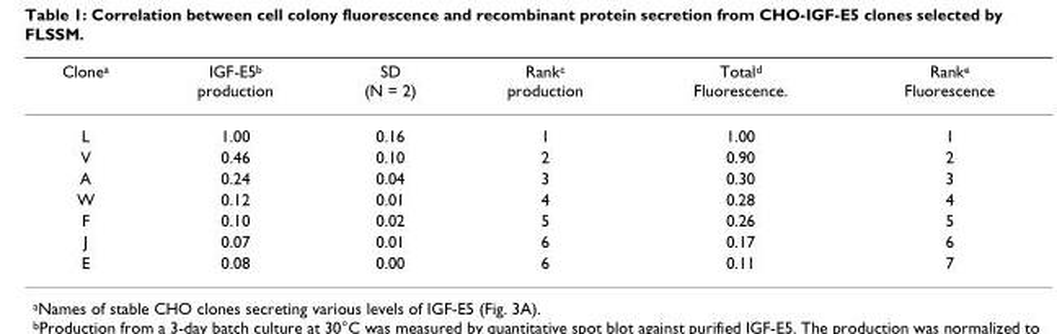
<table><thead><tr><td>Clone<sup>a</sup></td><td>IGF-E5<sup>b</sup> production</td><td>SD (N = 2)</td><td>Rank<sup>c</sup> production</td><td>Total<sup>d</sup> Fluorescence.</td><td>Rank<sup>e</sup> Fluorescence</td></tr></thead><tbody><tr><td>L</td><td>1.00</td><td>0.16</td><td>1</td><td>1.00</td><td>1</td></tr><tr><td>V</td><td>0.46</td><td>0.10</td><td>2</td><td>0.90</td><td>2</td></tr><tr><td>A</td><td>0.24</td><td>0.04</td><td>3</td><td>0.30</td><td>3</td></tr><tr><td>W</td><td>0.12</td><td>0.01</td><td>4</td><td>0.28</td><td>4</td></tr><tr><td>F</td><td>0.10</td><td>0.02</td><td>5</td><td>0.26</td><td>5</td></tr><tr><td>J</td><td>0.07</td><td>0.01</td><td>6</td><td>0.17</td><td>6</td></tr><tr><td>E</td><td>0.08</td><td>0.00</td><td>6</td><td>0.11</td><td>7</td></tr></tbody></table>